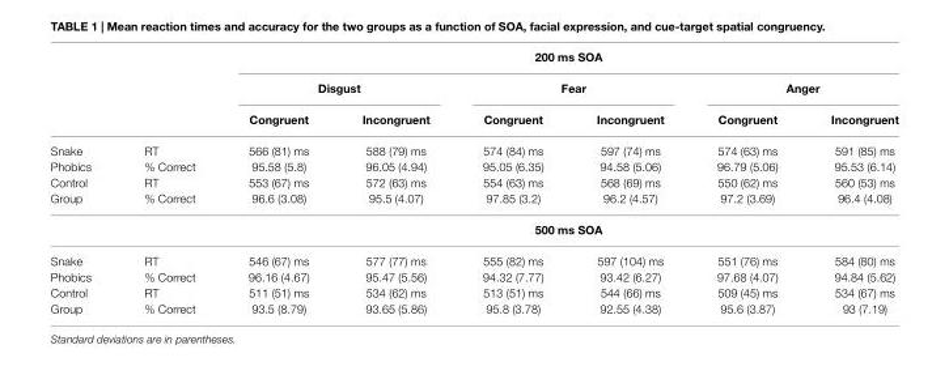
<table><thead><tr><td rowspan="3"></td><td rowspan="3"></td><td colspan="6">200 ms SOA</td></tr><tr><td colspan="2">Disgust</td><td colspan="2">Fear</td><td colspan="2">Anger</td></tr><tr><td>Congruent</td><td>Incongruent</td><td>Congruent</td><td>Incongruent</td><td>Congruent</td><td>Incongruent</td></tr></thead><tbody><tr><td>Snake</td><td>RT</td><td>566 (81) ms</td><td>588 (79) ms</td><td>574 (84) ms</td><td>597 (74) ms</td><td>574 (63) ms</td><td>591 (85) ms</td></tr><tr><td>Phobics</td><td>% Correct</td><td>95.58 (5.8)</td><td>96.05 (4.94)</td><td>95.05 (6.35)</td><td>94.58 (5.06)</td><td>96.79 (5.06)</td><td>95.53 (6.14)</td></tr><tr><td>Control</td><td>RT</td><td>553 (67) ms</td><td>572 (63) ms</td><td>554 (63) ms</td><td>568 (69) ms</td><td>550 (62) ms</td><td>560 (53) ms</td></tr><tr><td rowspan="2">Group</td><td>% Correct</td><td>96.6 (3.08)</td><td>95.5 (4.07)</td><td>97.85 (3.2)</td><td>96.2 (4.57)</td><td>97.2 (3.69)</td><td>96.4 (4.08)</td></tr><tr><td></td><td></td><td></td><td colspan="2">500 ms SOA</td><td></td><td></td></tr><tr><td>Snake</td><td>RT</td><td>546 (67) ms</td><td>577 (77) ms</td><td>555 (82) ms</td><td>597 (104) ms</td><td>551 (76) ms</td><td>584 (80) ms</td></tr><tr><td>Phobics</td><td>% Correct</td><td>96.16 (4.67)</td><td>95.47 (5.56)</td><td>94.32 (7.77)</td><td>93.42 (6.27)</td><td>97.68 (4.07)</td><td>94.84 (5.62)</td></tr><tr><td>Control</td><td>RT</td><td>511 (51) ms</td><td>534 (62) ms</td><td>513 (51) ms</td><td>544 (66) ms</td><td>509 (45) ms</td><td>534 (67) ms</td></tr><tr><td>Group</td><td>% Correct</td><td>93.5 (8.79)</td><td>93.65 (5.86)</td><td>95.8 (3.78)</td><td>92.55 (4.38)</td><td>95.6 (3.87)</td><td>93 (7.19)</td></tr></tbody></table>